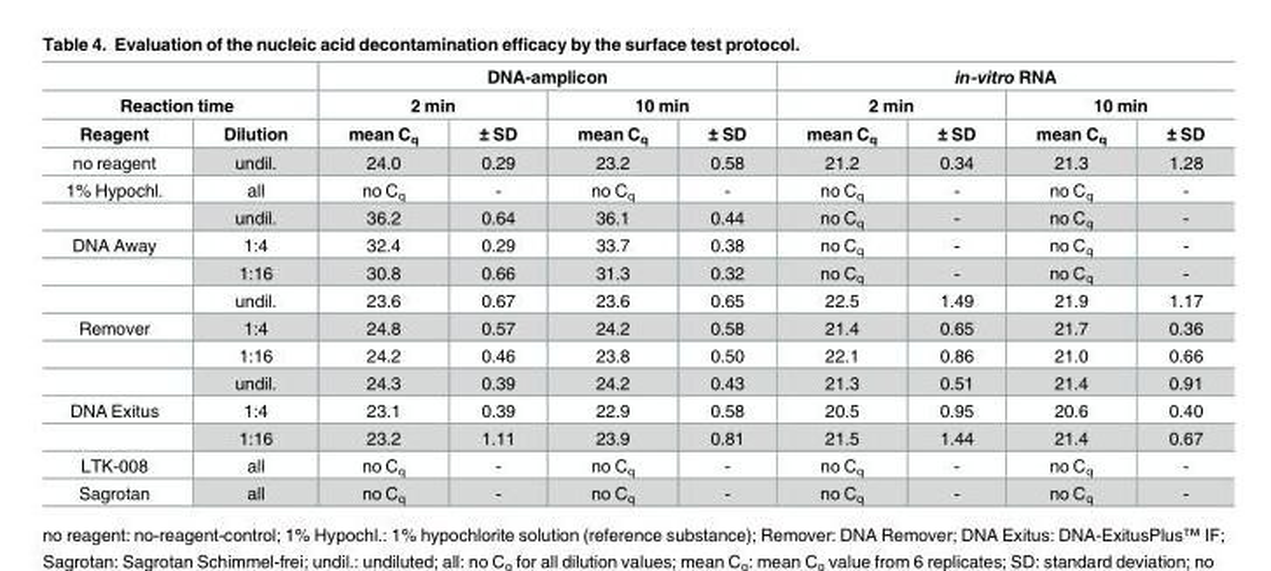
<table><thead><tr><td></td><td></td><td colspan="4">DNA-amplicon</td><td colspan="4">in-vitro RNA</td></tr><tr><td colspan="2">Reaction time</td><td colspan="2">2 min</td><td colspan="2">10 min</td><td colspan="2">2 min</td><td colspan="2">10 min</td></tr><tr><td>Reagent</td><td>Dilution</td><td>mean C<sub>q</sub></td><td>± SD</td><td>mean C<sub>q</sub></td><td>± SD</td><td>mean C<sub>q</sub></td><td>± SD</td><td>mean C<sub>q</sub></td><td>± SD</td></tr></thead><tbody><tr><td>no reagent</td><td>undil.</td><td>24.0</td><td>0.29</td><td>23.2</td><td>0.58</td><td>21.2</td><td>0.34</td><td>21.3</td><td>1.28</td></tr><tr><td rowspan="2">1% Hypochl.</td><td>all</td><td>no C<sub>q</sub></td><td>-</td><td>no C<sub>q</sub></td><td>-</td><td>no C<sub>q</sub></td><td>-</td><td>no C<sub>q</sub></td><td>-</td></tr><tr><td>undil.</td><td>36.2</td><td>0.64</td><td>36.1</td><td>0.44</td><td>no C<sub>q</sub></td><td>-</td><td>no C<sub>q</sub></td><td>-</td></tr><tr><td rowspan="3">DNA Away</td><td>1:4</td><td>32.4</td><td>0.29</td><td>33.7</td><td>0.38</td><td>no C<sub>q</sub></td><td>-</td><td>no C<sub>q</sub></td><td>-</td></tr><tr><td>1:16</td><td>30.8</td><td>0.66</td><td>31.3</td><td>0.32</td><td>no C<sub>q</sub></td><td>-</td><td>no C<sub>q</sub></td><td>-</td></tr><tr><td>undil.</td><td>23.6</td><td>0.67</td><td>23.6</td><td>0.65</td><td>22.5</td><td>1.49</td><td>21.9</td><td>1.17</td></tr><tr><td rowspan="3">Remover</td><td>1:4</td><td>24.8</td><td>0.57</td><td>24.2</td><td>0.58</td><td>21.4</td><td>0.65</td><td>21.7</td><td>0.36</td></tr><tr><td>1:16</td><td>24.2</td><td>0.46</td><td>23.8</td><td>0.50</td><td>22.1</td><td>0.86</td><td>21.0</td><td>0.66</td></tr><tr><td>undil.</td><td>24.3</td><td>0.39</td><td>24.2</td><td>0.43</td><td>21.3</td><td>0.51</td><td>21.4</td><td>0.91</td></tr><tr><td rowspan="2">DNA Exitus</td><td>1:4</td><td>23.1</td><td>0.39</td><td>22.9</td><td>0.58</td><td>20.5</td><td>0.95</td><td>20.6</td><td>0.40</td></tr><tr><td>1:16</td><td>23.2</td><td>1.11</td><td>23.9</td><td>0.81</td><td>21.5</td><td>1.44</td><td>21.4</td><td>0.67</td></tr><tr><td>LTK-008</td><td>all</td><td>no C<sub>q</sub></td><td>-</td><td>no C<sub>q</sub></td><td>-</td><td>no C<sub>q</sub></td><td>-</td><td>no C<sub>q</sub></td><td>-</td></tr><tr><td>Sagrotan</td><td>all</td><td>no C<sub>q</sub></td><td>-</td><td>no C<sub>q</sub></td><td>-</td><td>no C<sub>q</sub></td><td>-</td><td>no C<sub>q</sub></td><td>-</td></tr></tbody></table>